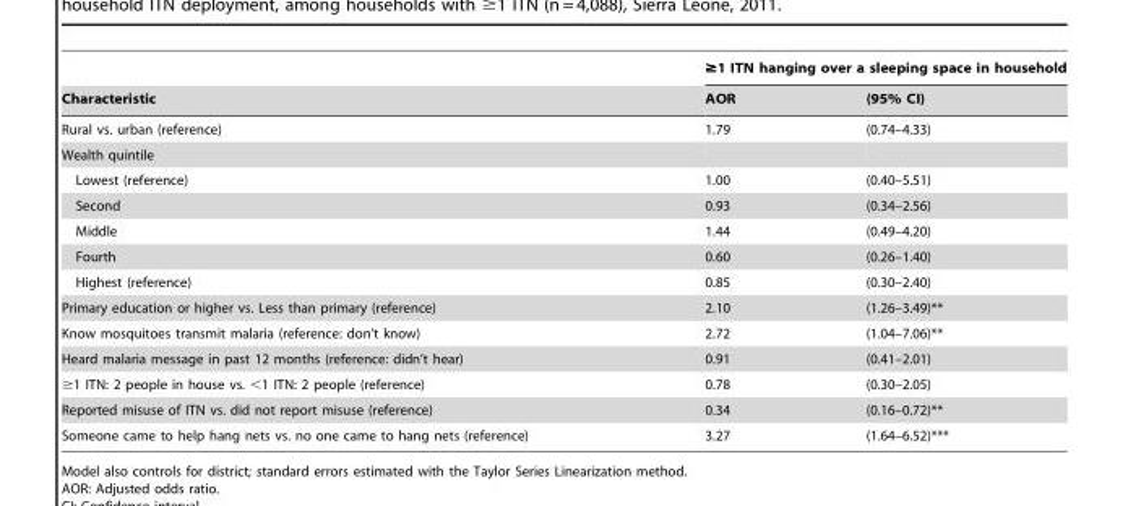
<table><thead><tr><td rowspan="2">Characteristic</td><td colspan="2">≥1 ITN hanging over a sleeping space in household</td></tr><tr><td>AOR</td><td>(95% CI)</td></tr></thead><tbody><tr><td>Rural vs. urban (reference)</td><td>1.79</td><td>(0.74–4.33)</td></tr><tr><td colspan="3">Wealth quintile</td></tr><tr><td>Lowest (reference)</td><td>1.00</td><td>(0.40–5.51)</td></tr><tr><td>Second</td><td>0.93</td><td>(0.34–2.56)</td></tr><tr><td>Middle</td><td>1.44</td><td>(0.49–4.20)</td></tr><tr><td>Fourth</td><td>0.60</td><td>(0.26–1.40)</td></tr><tr><td>Highest (reference)</td><td>0.85</td><td>(0.30–2.40)</td></tr><tr><td>Primary education or higher vs. Less than primary (reference)</td><td>2.10</td><td>(1.26–3.49)**</td></tr><tr><td>Know mosquitoes transmit malaria (reference: don’t know)</td><td>2.72</td><td>(1.04–7.06)**</td></tr><tr><td>Heard malaria message in past 12 months (reference: didn’t hear)</td><td>0.91</td><td>(0.41–2.01)</td></tr><tr><td>≥1 ITN: 2 people in house vs. &lt;1 ITN: 2 people (reference)</td><td>0.78</td><td>(0.30–2.05)</td></tr><tr><td>Reported misuse of ITN vs. did not report misuse (reference)</td><td>0.34</td><td>(0.16–0.72)**</td></tr><tr><td>Someone came to help hang nets vs. no one came to hang nets (reference)</td><td>3.27</td><td>(1.64–6.52)***</td></tr></tbody></table>